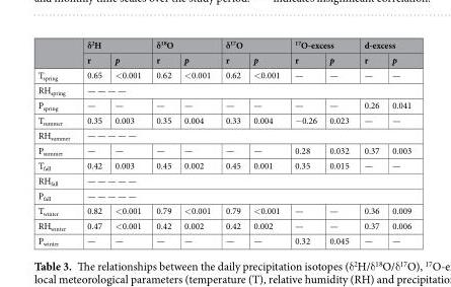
<table><thead><tr><td rowspan="2"></td><td colspan="2">δ<sup>2</sup>H</td><td colspan="2">δ<sup>18</sup>O</td><td colspan="2">δ<sup>17</sup>O</td><td colspan="2"><sup>17</sup>O-excess</td><td colspan="2">d-excess</td></tr><tr><td>r</td><td>p</td><td>r</td><td>p</td><td>r</td><td>p</td><td>r</td><td>p</td><td>r</td><td>p</td></tr></thead><tbody><tr><td>T<sub>spring</sub></td><td>0.65</td><td>&lt;0.001</td><td>0.62</td><td>&lt;0.001</td><td>0.62</td><td>&lt;0.001</td><td>—</td><td>—</td><td>—</td><td>—</td></tr><tr><td>RH<sub>spring</sub></td><td colspan="10">— — — —</td></tr><tr><td>P<sub>spring</sub></td><td>—</td><td>—</td><td>—</td><td>—</td><td>—</td><td>—</td><td>—</td><td>—</td><td>0.26</td><td>0.041</td></tr><tr><td>T<sub>summer</sub></td><td>0.35</td><td>0.003</td><td>0.35</td><td>0.004</td><td>0.33</td><td>0.004</td><td>−0.26</td><td>0.023</td><td>—</td><td>—</td></tr><tr><td>RH<sub>summer</sub></td><td colspan="10">— — — — —</td></tr><tr><td>P<sub>summer</sub></td><td>—</td><td>—</td><td>—</td><td>—</td><td>—</td><td>—</td><td>0.28</td><td>0.032</td><td>0.37</td><td>0.003</td></tr><tr><td>T<sub>fall</sub></td><td>0.42</td><td>0.003</td><td>0.45</td><td>0.002</td><td>0.45</td><td>0.001</td><td>0.35</td><td>0.015</td><td>—</td><td>—</td></tr><tr><td>RH<sub>fall</sub></td><td colspan="10">— — — — —</td></tr><tr><td>P<sub>fall</sub></td><td colspan="10">— — — — —</td></tr><tr><td>T<sub>winter</sub></td><td>0.82</td><td>&lt;0.001</td><td>0.79</td><td>&lt;0.001</td><td>0.79</td><td>&lt;0.001</td><td>—</td><td>—</td><td>0.36</td><td>0.009</td></tr><tr><td>RH<sub>winter</sub></td><td>0.47</td><td>&lt;0.001</td><td>0.42</td><td>0.002</td><td>0.42</td><td>0.002</td><td>—</td><td>—</td><td>0.37</td><td>0.006</td></tr><tr><td>P<sub>winter</sub></td><td>—</td><td>—</td><td>—</td><td>—</td><td>—</td><td>—</td><td>0.32</td><td>0.045</td><td>—</td><td>—</td></tr></tbody></table>